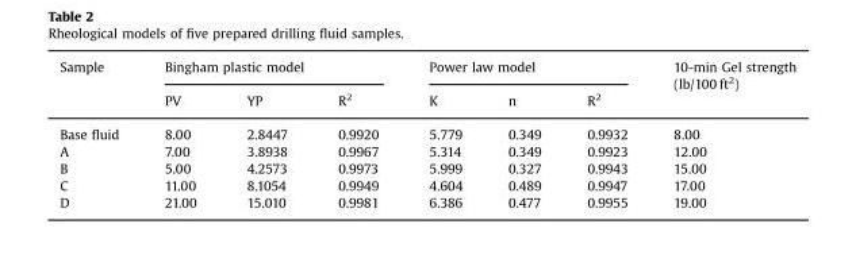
<table><thead><tr><td rowspan="2">Sample</td><td colspan="3">Bingham plastic model</td><td colspan="3">Power law model</td><td rowspan="2">10-min Gel strength (lb/100 ft<sup>2</sup>)</td></tr><tr><td>PV</td><td>YP</td><td>R<sup>2</sup></td><td>K</td><td>n</td><td>R<sup>2</sup></td></tr></thead><tbody><tr><td>Base fluid</td><td>8.00</td><td>2.8447</td><td>0.9920</td><td>5.779</td><td>0.349</td><td>0.9932</td><td>8.00</td></tr><tr><td>A</td><td>7.00</td><td>3.8938</td><td>0.9967</td><td>5.314</td><td>0.349</td><td>0.9923</td><td>12.00</td></tr><tr><td>B</td><td>5.00</td><td>4.2573</td><td>0.9973</td><td>5.999</td><td>0.327</td><td>0.9943</td><td>15.00</td></tr><tr><td>C</td><td>11.00</td><td>8.1054</td><td>0.9949</td><td>4.604</td><td>0.489</td><td>0.9947</td><td>17.00</td></tr><tr><td>D</td><td>21.00</td><td>15.010</td><td>0.9981</td><td>6.386</td><td>0.477</td><td>0.9955</td><td>19.00</td></tr></tbody></table>